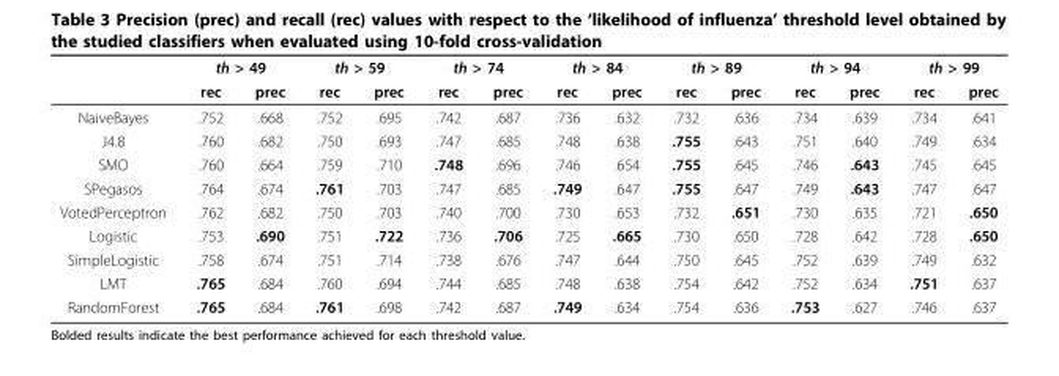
<table><thead><tr><td rowspan="2"></td><td colspan="2">th &gt; 49</td><td colspan="2">th &gt; 59</td><td colspan="2">th &gt; 74</td><td colspan="2">th &gt; 84</td><td colspan="2">th &gt; 89</td><td colspan="2">th &gt; 94</td><td colspan="2">th &gt; 99</td></tr><tr><td>rec</td><td>prec</td><td>rec</td><td>prec</td><td>rec</td><td>prec</td><td>rec</td><td>prec</td><td>rec</td><td>prec</td><td>rec</td><td>prec</td><td>rec</td><td>prec</td></tr></thead><tbody><tr><td>NaiveBayes</td><td>.752</td><td>.668</td><td>.752</td><td>.695</td><td>.742</td><td>.687</td><td>.736</td><td>.632</td><td>.732</td><td>.636</td><td>.734</td><td>.639</td><td>.734</td><td>.641</td></tr><tr><td>J4.8</td><td>.760</td><td>.682</td><td>.750</td><td>.693</td><td>.747</td><td>.685</td><td>.748</td><td>.638</td><td>.755</td><td>.643</td><td>.751</td><td>.640</td><td>.749</td><td>.634</td></tr><tr><td>SMO</td><td>.760</td><td>.664</td><td>.759</td><td>.710</td><td>.748</td><td>.696</td><td>.746</td><td>.654</td><td>.755</td><td>.645</td><td>.746</td><td>.643</td><td>.745</td><td>.645</td></tr><tr><td>SPegasos</td><td>.764</td><td>.674</td><td>.761</td><td>.703</td><td>.747</td><td>.685</td><td>.749</td><td>.647</td><td>.755</td><td>.647</td><td>.749</td><td>.643</td><td>.747</td><td>.647</td></tr><tr><td>VotedPerceptron</td><td>.762</td><td>.682</td><td>.750</td><td>.703</td><td>.740</td><td>.700</td><td>.730</td><td>.653</td><td>.732</td><td>.651</td><td>.730</td><td>.635</td><td>.721</td><td>.650</td></tr><tr><td>Logistic</td><td>.753</td><td>.690</td><td>.751</td><td>.722</td><td>.736</td><td>.706</td><td>.725</td><td>.665</td><td>.730</td><td>.650</td><td>.728</td><td>.642</td><td>.728</td><td>.650</td></tr><tr><td>SimpleLogistic</td><td>.758</td><td>.674</td><td>.751</td><td>.714</td><td>.738</td><td>.676</td><td>.747</td><td>.644</td><td>.750</td><td>.645</td><td>.752</td><td>.639</td><td>.749</td><td>.632</td></tr><tr><td>LMT</td><td>.765</td><td>.684</td><td>.760</td><td>.694</td><td>.744</td><td>.685</td><td>.748</td><td>.638</td><td>.754</td><td>.642</td><td>.752</td><td>.634</td><td>.751</td><td>.637</td></tr><tr><td>RandomForest</td><td>.765</td><td>.684</td><td>.761</td><td>.698</td><td>.742</td><td>.687</td><td>.749</td><td>.634</td><td>.754</td><td>.636</td><td>.753</td><td>.627</td><td>.746</td><td>.637</td></tr></tbody></table>